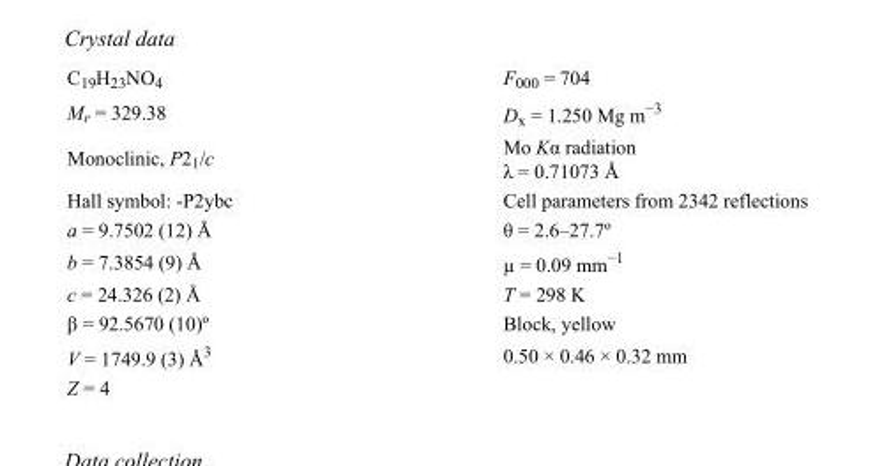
<table><tbody><tr><td>C<sub>19</sub>H<sub>23</sub>NO<sub>4</sub></td><td>F000 = 704</td></tr><tr><td>M<sub>r</sub> = 329.38</td><td>D<sub>x</sub> = 1.250 Mg m<sup>−3</sup></td></tr><tr><td>Monoclinic, P2<sub>1</sub>/c</td><td>Mo Kα radiation λ = 0.71073 Å</td></tr><tr><td>Hall symbol: -P2ybc</td><td>Cell parameters from 2342 reflections</td></tr><tr><td>a = 9.7502 (12) Å</td><td>θ = 2.6–27.7º</td></tr><tr><td>b = 7.3854 (9) Å</td><td>µ = 0.09 mm<sup>−1</sup></td></tr><tr><td>c = 24.326 (2) Å</td><td>T = 298 K</td></tr><tr><td>β = 92.5670 (10)º</td><td>Block, yellow</td></tr><tr><td>V = 1749.9 (3) Å<sup>3</sup></td><td>0.50 × 0.46 × 0.32 mm</td></tr><tr><td>Z = 4</td><td></td></tr></tbody></table>